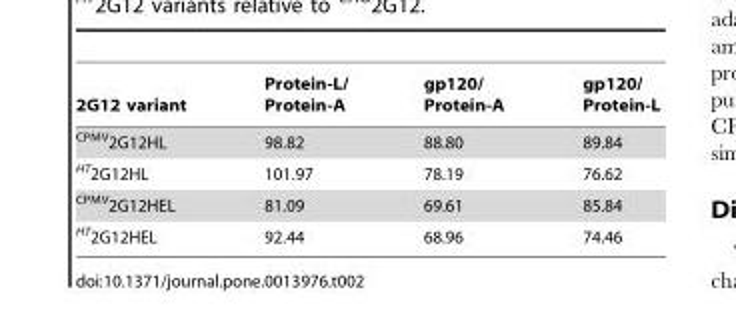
<table><thead><tr><td>2G12 variant</td><td>Protein-L/ Protein-A</td><td>gp120/ Protein-A</td><td>gp120/ Protein-L</td></tr></thead><tbody><tr><td><sup>CPMV</sup>2G12HL</td><td>98.82</td><td>88.80</td><td>89.84</td></tr><tr><td><sup>HT</sup>2G12HL</td><td>101.97</td><td>78.19</td><td>76.62</td></tr><tr><td><sup>CPMV</sup>2G12HEL</td><td>81.09</td><td>69.61</td><td>85.84</td></tr><tr><td><sup>HT</sup>2G12HEL</td><td>92.44</td><td>68.96</td><td>74.46</td></tr></tbody></table>